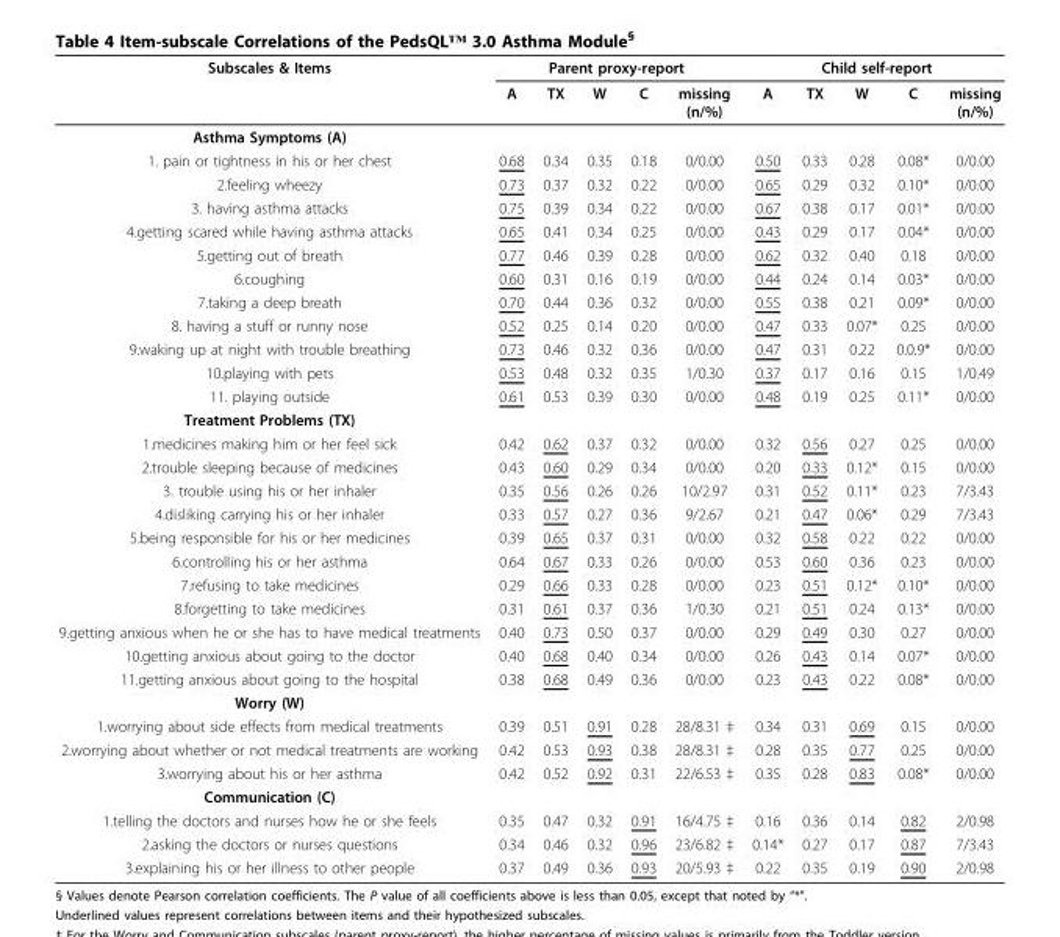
<table><thead><tr><td rowspan="2">Subscales &amp; Items</td><td colspan="5">Parent proxy-report</td><td colspan="5">Child self-report</td></tr><tr><td>A</td><td>TX</td><td>W</td><td>C</td><td>missing (n/%)</td><td>A</td><td>TX</td><td>W</td><td>C</td><td>missing (n/%)</td></tr></thead><tbody><tr><td colspan="11">Asthma Symptoms (A)</td></tr><tr><td>1. pain or tightness in his or her chest</td><td>0.68</td><td>0.34</td><td>0.35</td><td>0.18</td><td>0/0.00</td><td>0.50</td><td>0.33</td><td>0.28</td><td>0.08*</td><td>0/0.00</td></tr><tr><td>2.feeling wheezy</td><td>0.73</td><td>0.37</td><td>0.32</td><td>0.22</td><td>0/0.00</td><td>0.65</td><td>0.29</td><td>0.32</td><td>0.10*</td><td>0/0.00</td></tr><tr><td>3. having asthma attacks</td><td>0.75</td><td>0.39</td><td>0.34</td><td>0.22</td><td>0/0.00</td><td>0.67</td><td>0.38</td><td>0.17</td><td>0.01*</td><td>0/0.00</td></tr><tr><td>4.getting scared while having asthma attacks</td><td>0.65</td><td>0.41</td><td>0.34</td><td>0.25</td><td>0/0.00</td><td>0.43</td><td>0.29</td><td>0.17</td><td>0.04*</td><td>0/0.00</td></tr><tr><td>5.getting out of breath</td><td>0.77</td><td>0.46</td><td>0.39</td><td>0.28</td><td>0/0.00</td><td>0.62</td><td>0.32</td><td>0.40</td><td>0.18</td><td>0/0.00</td></tr><tr><td>6.coughing</td><td>0.60</td><td>0.31</td><td>0.16</td><td>0.19</td><td>0/0.00</td><td>0.44</td><td>0.24</td><td>0.14</td><td>0.03*</td><td>0/0.00</td></tr><tr><td>7.taking a deep breath</td><td>0.70</td><td>0.44</td><td>0.36</td><td>0.32</td><td>0/0.00</td><td>0.55</td><td>0.38</td><td>0.21</td><td>0.09*</td><td>0/0.00</td></tr><tr><td>8. having a stuff or runny nose</td><td>0.52</td><td>0.25</td><td>0.14</td><td>0.20</td><td>0/0.00</td><td>0.47</td><td>0.33</td><td>0.07*</td><td>0.25</td><td>0/0.00</td></tr><tr><td>9.waking up at night with trouble breathing</td><td>0.73</td><td>0.46</td><td>0.32</td><td>0.36</td><td>0/0.00</td><td>0.47</td><td>0.31</td><td>0.22</td><td>0.0.9*</td><td>0/0.00</td></tr><tr><td>10.playing with pets</td><td>0.53</td><td>0.48</td><td>0.32</td><td>0.35</td><td>1/0.30</td><td>0.37</td><td>0.17</td><td>0.16</td><td>0.15</td><td>1/0.49</td></tr><tr><td>11. playing outside</td><td>0.61</td><td>0.53</td><td>0.39</td><td>0.30</td><td>0/0.00</td><td>0.48</td><td>0.19</td><td>0.25</td><td>0.11*</td><td>0/0.00</td></tr><tr><td colspan="11">Treatment Problems (TX)</td></tr><tr><td>1.medicines making him or her feel sick</td><td>0.42</td><td>0.62</td><td>0.37</td><td>0.32</td><td>0/0.00</td><td>0.32</td><td>0.56</td><td>0.27</td><td>0.25</td><td>0/0.00</td></tr><tr><td>2.trouble sleeping because of medicines</td><td>0.43</td><td>0.60</td><td>0.29</td><td>0.34</td><td>0/0.00</td><td>0.20</td><td>0.33</td><td>0.12*</td><td>0.15</td><td>0/0.00</td></tr><tr><td>3. trouble using his or her inhaler</td><td>0.35</td><td>0.56</td><td>0.26</td><td>0.26</td><td>10/2.97</td><td>0.31</td><td>0.52</td><td>0.11*</td><td>0.23</td><td>7/3.43</td></tr><tr><td>4.disliking carrying his or her inhaler</td><td>0.33</td><td>0.57</td><td>0.27</td><td>0.36</td><td>9/2.67</td><td>0.21</td><td>0.47</td><td>0.06*</td><td>0.29</td><td>7/3.43</td></tr><tr><td>5.being responsible for his or her medicines</td><td>0.39</td><td>0.65</td><td>0.37</td><td>0.31</td><td>0/0.00</td><td>0.32</td><td>0.58</td><td>0.22</td><td>0.22</td><td>0/0.00</td></tr><tr><td>6.controlling his or her asthma</td><td>0.64</td><td>0.67</td><td>0.33</td><td>0.26</td><td>0/0.00</td><td>0.53</td><td>0.60</td><td>0.36</td><td>0.23</td><td>0/0.00</td></tr><tr><td>7.refusing to take medicines</td><td>0.29</td><td>0.66</td><td>0.33</td><td>0.28</td><td>0/0.00</td><td>0.23</td><td>0.51</td><td>0.12*</td><td>0.10*</td><td>0/0.00</td></tr><tr><td>8.forgetting to take medicines</td><td>0.31</td><td>0.61</td><td>0.37</td><td>0.36</td><td>1/0.30</td><td>0.21</td><td>0.51</td><td>0.24</td><td>0.13*</td><td>0/0.00</td></tr><tr><td>9.getting anxious when he or she has to have medical treatments</td><td>0.40</td><td>0.73</td><td>0.50</td><td>0.37</td><td>0/0.00</td><td>0.29</td><td>0.49</td><td>0.30</td><td>0.27</td><td>0/0.00</td></tr><tr><td>10.getting anxious about going to the doctor</td><td>0.40</td><td>0.68</td><td>0.40</td><td>0.34</td><td>0/0.00</td><td>0.26</td><td>0.43</td><td>0.14</td><td>0.07*</td><td>0/0.00</td></tr><tr><td>11.getting anxious about going to the hospital</td><td>0.38</td><td>0.68</td><td>0.49</td><td>0.36</td><td>0/0.00</td><td>0.23</td><td>0.43</td><td>0.22</td><td>0.08*</td><td>0/0.00</td></tr><tr><td colspan="11">Worry (W)</td></tr><tr><td>1.worrying about side effects from medical treatments</td><td>0.39</td><td>0.51</td><td>0.91</td><td>0.28</td><td>28/8.31 ‡</td><td>0.34</td><td>0.31</td><td>0.69</td><td>0.15</td><td>0/0.00</td></tr><tr><td>2.worrying about whether or not medical treatments are working</td><td>0.42</td><td>0.53</td><td>0.93</td><td>0.38</td><td>28/8.31 ‡</td><td>0.28</td><td>0.35</td><td>0.77</td><td>0.25</td><td>0/0.00</td></tr><tr><td>3.worrying about his or her asthma</td><td>0.42</td><td>0.52</td><td>0.92</td><td>0.31</td><td>22/6.53 ‡</td><td>0.35</td><td>0.28</td><td>0.83</td><td>0.08*</td><td>0/0.00</td></tr><tr><td colspan="11">Communication (C)</td></tr><tr><td>1.telling the doctors and nurses how he or she feels</td><td>0.35</td><td>0.47</td><td>0.32</td><td>0.91</td><td>16/4.75 ‡</td><td>0.16</td><td>0.36</td><td>0.14</td><td>0.82</td><td>2/0.98</td></tr><tr><td>2.asking the doctors or nurses questions</td><td>0.34</td><td>0.46</td><td>0.32</td><td>0.96</td><td>23/6.82 ‡</td><td>0.14*</td><td>0.27</td><td>0.17</td><td>0.87</td><td>7/3.43</td></tr><tr><td>3.explaining his or her illness to other people</td><td>0.37</td><td>0.49</td><td>0.36</td><td>0.93</td><td>20/5.93 ‡</td><td>0.22</td><td>0.35</td><td>0.19</td><td>0.90</td><td>2/0.98</td></tr></tbody></table>